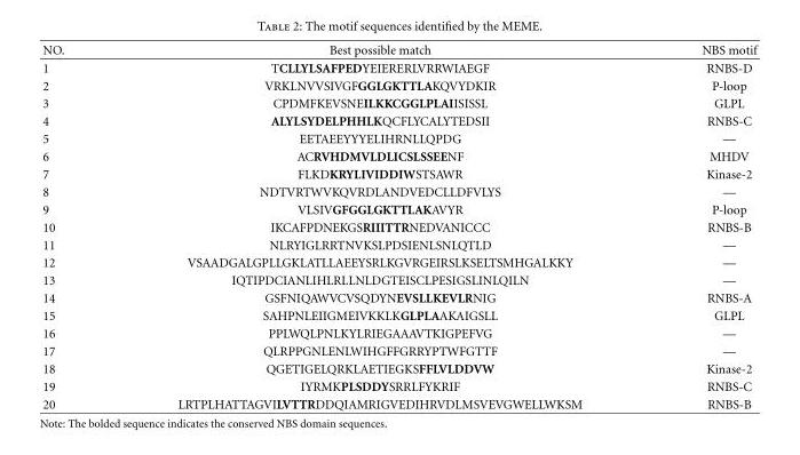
<table><thead><tr><td>NO.</td><td>Best possible match</td><td>NBS motif</td></tr></thead><tbody><tr><td>1</td><td>TCLLYLSAFPEDYEIERERLVRRWIAEGF</td><td>RNBS-D</td></tr><tr><td>2</td><td>VRKLNVVSIVGFGGLGKTTLAKQVYDKIR</td><td>P-loop</td></tr><tr><td>3</td><td>CPDMFKEVSNEILKKCGGLPLAIISISSL</td><td>GLPL</td></tr><tr><td>4</td><td>ALYLSYDELPHHLKQCFLYCALYTEDSII</td><td>RNBS-C</td></tr><tr><td>5</td><td>EETAEEYYYELIHRNLLQPDG</td><td>—</td></tr><tr><td>6</td><td>ACRVHDMVLDLICSLSSEENF</td><td>MHDV</td></tr><tr><td>7</td><td>FLKDKRYLIVIDDIWSTSAWR</td><td>Kinase-2</td></tr><tr><td>8</td><td>NDTVRTWVKQVRDLANDVEDCLLDFVLYS</td><td>—</td></tr><tr><td>9</td><td>VLSIVGFGGLGKTTLAKAVYR</td><td>P-loop</td></tr><tr><td>10</td><td>IKCAFPDNEKGSRIIITTRNEDVANICCC</td><td>RNBS-B</td></tr><tr><td>11</td><td>NLRYIGLRRTNVKSLPDSIENLSNLQTLD</td><td>—</td></tr><tr><td>12</td><td>VSAADGALGPLLGKLATLLAEEYSRLKGVRGEIRSLKSELTSMHGALKKY</td><td>—</td></tr><tr><td>13</td><td>IQTIPDCIANLIHLRLLNLDGTEISCLPESIGSLINLQILN</td><td>—</td></tr><tr><td>14</td><td>GSFNIQAWVCVSQDYNEVSLLKEVLRNIG</td><td>RNBS-A</td></tr><tr><td>15</td><td>SAHPNLEIIGMEIVKKLKGLPLAAKAIGSLL</td><td>GLPL</td></tr><tr><td>16</td><td>PPLWQLPNLKYLRIEGAAAVTKIGPEFVG</td><td>—</td></tr><tr><td>17</td><td>QLRPPGNLENLWIHGFFGRRYPTWFGTTF</td><td>—</td></tr><tr><td>18</td><td>QGETIGELQRKLAETIEGKSFFLVLDDVW</td><td>Kinase-2</td></tr><tr><td>19</td><td>IYRMKPLSDDYSRRLFYKRIF</td><td>RNBS-C</td></tr><tr><td>20</td><td>LRTPLHATTAGVILVTTRDDQIAMRIGVEDIHRVDLMSVEVGWELLWKSM</td><td>RNBS-B</td></tr></tbody></table>